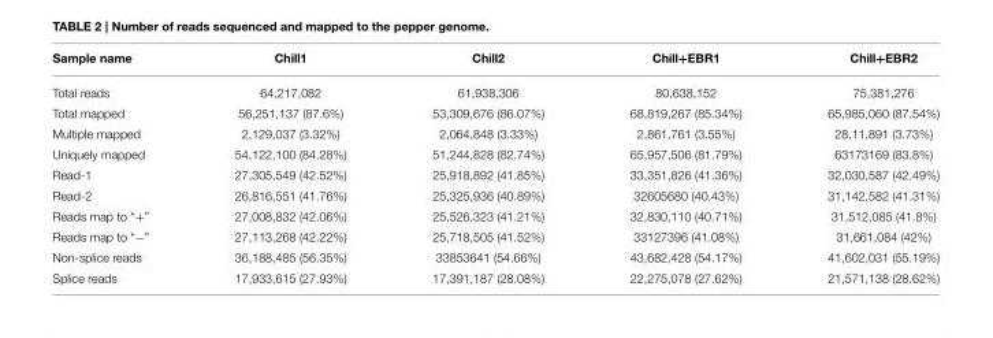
<table><thead><tr><td>Sample name</td><td>Chill1</td><td>Chill2</td><td>Chill+EBR1</td><td>Chill+EBR2</td></tr></thead><tbody><tr><td>Total reads</td><td>64,217,082</td><td>61,938,306</td><td>80,638,152</td><td>75,381,276</td></tr><tr><td>Total mapped</td><td>56,251,137 (87.6%)</td><td>53,309,676 (86.07%)</td><td>68,819,267 (85.34%)</td><td>65,985,060 (87.54%)</td></tr><tr><td>Multiple mapped</td><td>2,129,037 (3.32%)</td><td>2,064,848 (3.33%)</td><td>2,861,761 (3.55%)</td><td>28,11,891 (3.73%)</td></tr><tr><td>Uniquely mapped</td><td>54,122,100 (84.28%)</td><td>51,244,828 (82.74%)</td><td>65,957,506 (81.79%)</td><td>63173169 (83.8%)</td></tr><tr><td>Read-1</td><td>27,305,549 (42.52%)</td><td>25,918,892 (41.85%)</td><td>33,351,826 (41.36%)</td><td>32,030,587 (42.49%)</td></tr><tr><td>Read-2</td><td>26,816,551 (41.76%)</td><td>25,325,936 (40.89%)</td><td>32605680 (40.43%)</td><td>31,142,582 (41.31%)</td></tr><tr><td>Reads map to “+”</td><td>27,008,832 (42.06%)</td><td>25,526,323 (41.21%)</td><td>32,830,110 (40.71%)</td><td>31,512,085 (41.8%)</td></tr><tr><td>Reads map to “−”</td><td>27,113,268 (42.22%)</td><td>25,718,505 (41.52%)</td><td>33127396 (41.08%)</td><td>31,661,084 (42%)</td></tr><tr><td>Non-splice reads</td><td>36,188,485 (56.35%)</td><td>33853641 (54.66%)</td><td>43,682,428 (54.17%)</td><td>41,602,031 (55.19%)</td></tr><tr><td>Splice reads</td><td>17,933,615 (27.93%)</td><td>17,391,187 (28.08%)</td><td>22,275,078 (27.62%)</td><td>21,571,138 (28.62%)</td></tr></tbody></table>